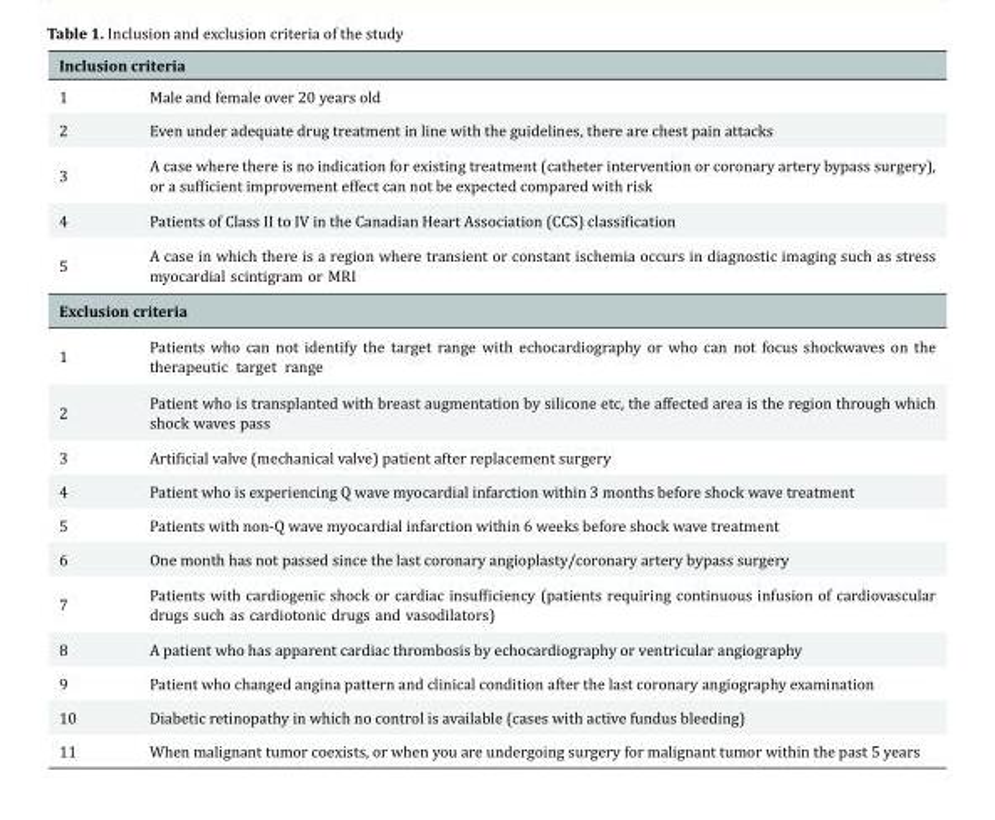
<table><thead><tr><td colspan="2">Inclusion criteria</td></tr><tr><td>1</td><td>Male and female over 20 years old</td></tr></thead><tbody><tr><td>2</td><td>Even under adequate drug treatment in line with the guidelines, there are chest pain attacks</td></tr><tr><td>3</td><td>A case where there is no indication for existing treatment (catheter intervention or coronary artery bypass surgery), or a sufficient improvement effect can not be expected compared with risk</td></tr><tr><td>4</td><td>Patients of Class II to IV in the Canadian Heart Association (CCS) classification</td></tr><tr><td>5</td><td>A case in which there is a region where transient or constant ischemia occurs in diagnostic imaging such as stress myocardial scintigram or MRI</td></tr><tr><td colspan="2">Exclusion criteria</td></tr><tr><td>1</td><td>Patients who can not identify the target range with echocardiography or who can not focus shockwaves on the therapeutic target range</td></tr><tr><td>2</td><td>Patient who is transplanted with breast augmentation by silicone etc, the affected area is the region through which shock waves pass</td></tr><tr><td>3</td><td>Artificial valve (mechanical valve) patient after replacement surgery</td></tr><tr><td>4</td><td>Patient who is experiencing Q wave myocardial infarction within 3 months before shock wave treatment</td></tr><tr><td>5</td><td>Patients with non-Q wave myocardial infarction within 6 weeks before shock wave treatment</td></tr><tr><td>6</td><td>One month has not passed since the last coronary angioplasty/coronary artery bypass surgery</td></tr><tr><td>7</td><td>Patients with cardiogenic shock or cardiac insufficiency (patients requiring continuous infusion of cardiovascular drugs such as cardiotonic drugs and vasodilators)</td></tr><tr><td>8</td><td>A patient who has apparent cardiac thrombosis by echocardiography or ventricular angiography</td></tr><tr><td>9</td><td>Patient who changed angina pattern and clinical condition after the last coronary angiography examination</td></tr><tr><td>10</td><td>Diabetic retinopathy in which no control is available (cases with active fundus bleeding)</td></tr><tr><td>11</td><td>When malignant tumor coexists, or when you are undergoing surgery for malignant tumor within the past 5 years</td></tr></tbody></table>